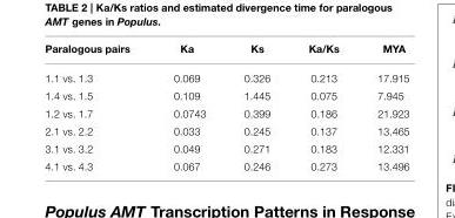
<table><thead><tr><td>Paralogous pairs</td><td>Ka</td><td>Ks</td><td>Ka/Ks</td><td>MYA</td></tr></thead><tbody><tr><td>1.1 vs. 1.3</td><td>0.069</td><td>0.326</td><td>0.213</td><td>17.915</td></tr><tr><td>1.4 vs. 1.5</td><td>0.109</td><td>1.445</td><td>0.075</td><td>7.945</td></tr><tr><td>1.2 vs. 1.7</td><td>0.0743</td><td>0.399</td><td>0.186</td><td>21.923</td></tr><tr><td>2.1 vs. 2.2</td><td>0.033</td><td>0.245</td><td>0.137</td><td>13.465</td></tr><tr><td>3.1 vs. 3.2</td><td>0.049</td><td>0.271</td><td>0.183</td><td>12.331</td></tr><tr><td>4.1 vs. 4.3</td><td>0.067</td><td>0.246</td><td>0.273</td><td>13.496</td></tr></tbody></table>